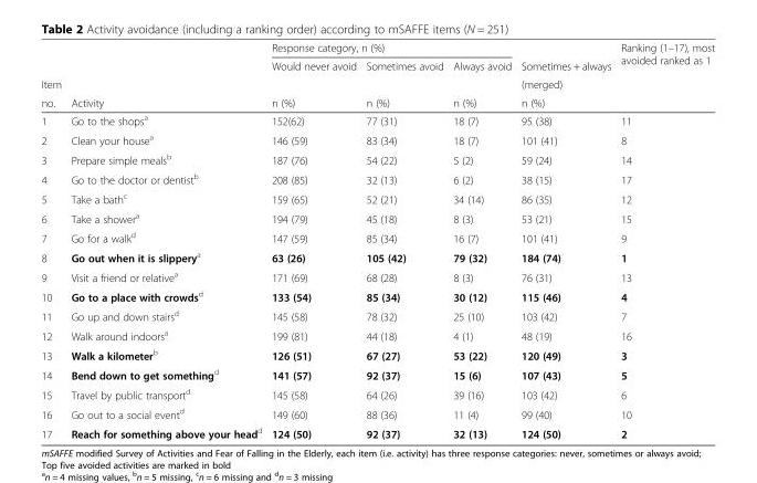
<table><thead><tr><td rowspan="4">Item no.</td><td rowspan="4">Activity</td><td colspan="3">Response category, n (%)</td><td rowspan="4">Sometimes + always (merged) n (%)</td><td rowspan="4">Ranking (1–17), most avoided ranked as 1</td></tr><tr><td rowspan="3">Would never avoid n (%)</td><td rowspan="3">Sometimes avoid n (%)</td><td rowspan="3">Always avoid n (%)</td></tr><tr></tr><tr></tr></thead><tbody><tr><td>1</td><td>Go to the shops<sup>a</sup></td><td>152(62)</td><td>77 (31)</td><td>18 (7)</td><td>95 (38)</td><td>11</td></tr><tr><td>2</td><td>Clean your house<sup>a</sup></td><td>146 (59)</td><td>83 (34)</td><td>18 (7)</td><td>101 (41)</td><td>8</td></tr><tr><td>3</td><td>Prepare simple meals<sup>b</sup></td><td>187 (76)</td><td>54 (22)</td><td>5 (2)</td><td>59 (24)</td><td>14</td></tr><tr><td>4</td><td>Go to the doctor or dentist<sup>b</sup></td><td>208 (85)</td><td>32 (13)</td><td>6 (2)</td><td>38 (15)</td><td>17</td></tr><tr><td>5</td><td>Take a bath<sup>c</sup></td><td>159 (65)</td><td>52 (21)</td><td>34 (14)</td><td>86 (35)</td><td>12</td></tr><tr><td>6</td><td>Take a shower<sup>a</sup></td><td>194 (79)</td><td>45 (18)</td><td>8 (3)</td><td>53 (21)</td><td>15</td></tr><tr><td>7</td><td>Go for a walk<sup>d</sup></td><td>147 (59)</td><td>85 (34)</td><td>16 (7)</td><td>101 (41)</td><td>9</td></tr><tr><td>8</td><td>Go out when it is slippery<sup>a</sup></td><td>63 (26)</td><td>105 (42)</td><td>79 (32)</td><td>184 (74)</td><td>1</td></tr><tr><td>9</td><td>Visit a friend or relative<sup>a</sup></td><td>171 (69)</td><td>68 (28)</td><td>8 (3)</td><td>76 (31)</td><td>13</td></tr><tr><td>10</td><td>Go to a place with crowds<sup>d</sup></td><td>133 (54)</td><td>85 (34)</td><td>30 (12)</td><td>115 (46)</td><td>4</td></tr><tr><td>11</td><td>Go up and down stairs<sup>d</sup></td><td>145 (58)</td><td>78 (32)</td><td>25 (10)</td><td>103 (42)</td><td>7</td></tr><tr><td>12</td><td>Walk around indoors<sup>a</sup></td><td>199 (81)</td><td>44 (18)</td><td>4 (1)</td><td>48 (19)</td><td>16</td></tr><tr><td>13</td><td>Walk a kilometer<sup>b</sup></td><td>126 (51)</td><td>67 (27)</td><td>53 (22)</td><td>120 (49)</td><td>3</td></tr><tr><td>14</td><td>Bend down to get something<sup>d</sup></td><td>141 (57)</td><td>92 (37)</td><td>15 (6)</td><td>107 (43)</td><td>5</td></tr><tr><td>15</td><td>Travel by public transport<sup>d</sup></td><td>145 (58)</td><td>64 (26)</td><td>39 (16)</td><td>103 (42)</td><td>6</td></tr><tr><td>16</td><td>Go out to a social event<sup>d</sup></td><td>149 (60)</td><td>88 (36)</td><td>11 (4)</td><td>99 (40)</td><td>10</td></tr><tr><td>17</td><td>Reach for something above your head<sup>d</sup></td><td>124 (50)</td><td>92 (37)</td><td>32 (13)</td><td>124 (50)</td><td>2</td></tr></tbody></table>